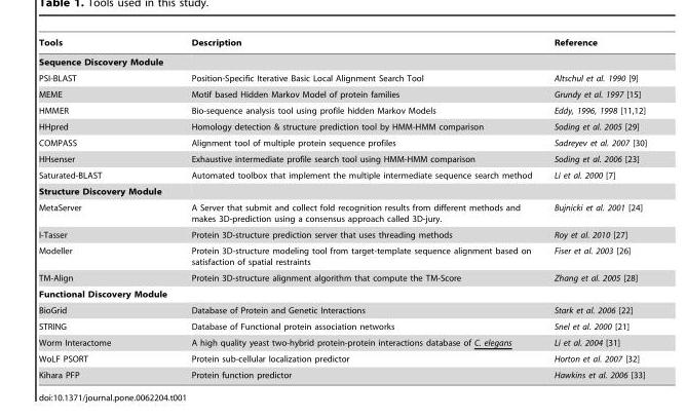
<table><thead><tr><td>Tools</td><td>Description</td><td>Reference</td></tr></thead><tbody><tr><td colspan="3">Sequence Discovery Module</td></tr><tr><td>PSI-BLAST</td><td>Position-Specific Iterative Basic Local Alignment Search Tool</td><td>Altschul et al. 1990 [9]</td></tr><tr><td>MEME</td><td>Motif based Hidden Markov Model of protein families</td><td>Grundy et al. 1997 [15]</td></tr><tr><td>HMMER</td><td>Bio-sequence analysis tool using profile hidden Markov Models</td><td>Eddy, 1996, 1998 [11,12]</td></tr><tr><td>HHpred</td><td>Homology detection &amp; structure prediction tool by HMM-HMM comparison</td><td>Soding et al. 2005 [29]</td></tr><tr><td>COMPASS</td><td>Alignment tool of multiple protein sequence profiles</td><td>Sadreyev et al. 2007 [30]</td></tr><tr><td>HHsenser</td><td>Exhaustive intermediate profile search tool using HMM-HMM comparison</td><td>Soding et al. 2006 [23]</td></tr><tr><td>Saturated-BLAST</td><td>Automated toolbox that implement the multiple intermediate sequence search method</td><td>Li et al. 2000 [7]</td></tr><tr><td colspan="3">Structure Discovery Module</td></tr><tr><td>MetaServer</td><td>A Server that submit and collect fold recognition results from different methods and makes 3D-prediction using a consensus approach called 3D-jury.</td><td>Bujnicki et al. 2001 [24]</td></tr><tr><td>I-Tasser</td><td>Protein 3D-structure prediction server that uses threading methods</td><td>Roy et al. 2010 [27]</td></tr><tr><td>Modeller</td><td>Protein 3D-structure modeling tool from target-template sequence alignment based on satisfaction of spatial restraints</td><td>Fiser et al. 2003 [26]</td></tr><tr><td>TM-Align</td><td>Protein 3D-structure alignment algorithm that compute the TM-Score</td><td>Zhang et al. 2005 [28]</td></tr><tr><td colspan="3">Functional Discovery Module</td></tr><tr><td>BioGrid</td><td>Database of Protein and Genetic Interactions</td><td>Stark et al. 2006 [22]</td></tr><tr><td>STRING</td><td>Database of Functional protein association networks</td><td>Snel et al. 2000 [21]</td></tr><tr><td>Worm Interactome</td><td>A high quality yeast two-hybrid protein-protein interactions database of C. elegans</td><td>Li et al. 2004 [31]</td></tr><tr><td>WoLF PSORT</td><td>Protein sub-cellular localization predictor</td><td>Horton et al. 2007 [32]</td></tr><tr><td>Kihara PFP</td><td>Protein function predictor</td><td>Hawkins et al. 2006 [33]</td></tr></tbody></table>